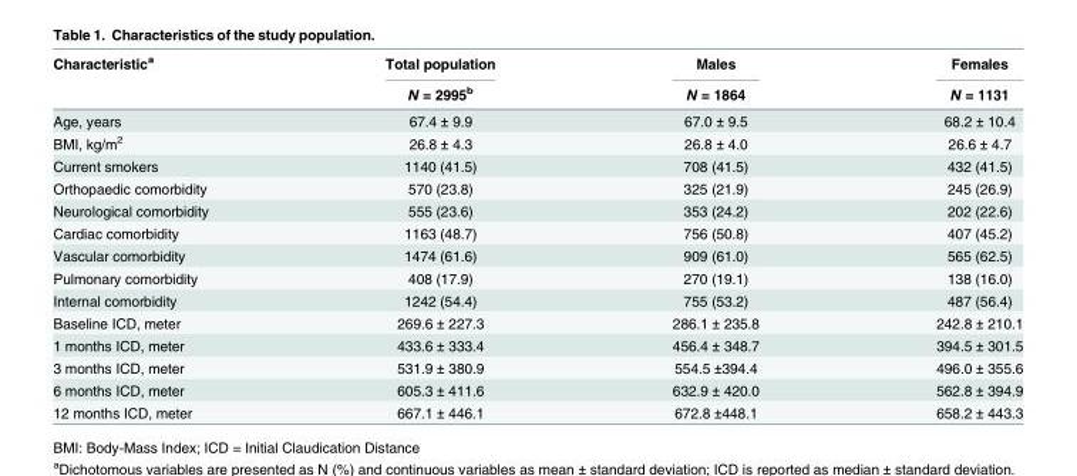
<table><thead><tr><td rowspan="2">Characteristic<sup>a</sup></td><td rowspan="2">Total population N = 2995<sup>b</sup></td><td rowspan="2">Males N = 1864</td><td rowspan="2">Females N = 1131</td></tr><tr></tr></thead><tbody><tr><td>Age, years</td><td>67.4 ± 9.9</td><td>67.0 ± 9.5</td><td>68.2 ± 10.4</td></tr><tr><td>BMI, kg/m<sup>2</sup></td><td>26.8 ± 4.3</td><td>26.8 ± 4.0</td><td>26.6 ± 4.7</td></tr><tr><td>Current smokers</td><td>1140 (41.5)</td><td>708 (41.5)</td><td>432 (41.5)</td></tr><tr><td>Orthopaedic comorbidity</td><td>570 (23.8)</td><td>325 (21.9)</td><td>245 (26.9)</td></tr><tr><td>Neurological comorbidity</td><td>555 (23.6)</td><td>353 (24.2)</td><td>202 (22.6)</td></tr><tr><td>Cardiac comorbidity</td><td>1163 (48.7)</td><td>756 (50.8)</td><td>407 (45.2)</td></tr><tr><td>Vascular comorbidity</td><td>1474 (61.6)</td><td>909 (61.0)</td><td>565 (62.5)</td></tr><tr><td>Pulmonary comorbidity</td><td>408 (17.9)</td><td>270 (19.1)</td><td>138 (16.0)</td></tr><tr><td>Internal comorbidity</td><td>1242 (54.4)</td><td>755 (53.2)</td><td>487 (56.4)</td></tr><tr><td>Baseline ICD, meter</td><td>269.6 ± 227.3</td><td>286.1 ± 235.8</td><td>242.8 ± 210.1</td></tr><tr><td>1 months ICD, meter</td><td>433.6 ± 333.4</td><td>456.4 ± 348.7</td><td>394.5 ± 301.5</td></tr><tr><td>3 months ICD, meter</td><td>531.9 ± 380.9</td><td>554.5 ±394.4</td><td>496.0 ± 355.6</td></tr><tr><td>6 months ICD, meter</td><td>605.3 ± 411.6</td><td>632.9 ± 420.0</td><td>562.8 ± 394.9</td></tr><tr><td>12 months ICD, meter</td><td>667.1 ± 446.1</td><td>672.8 ±448.1</td><td>658.2 ± 443.3</td></tr></tbody></table>